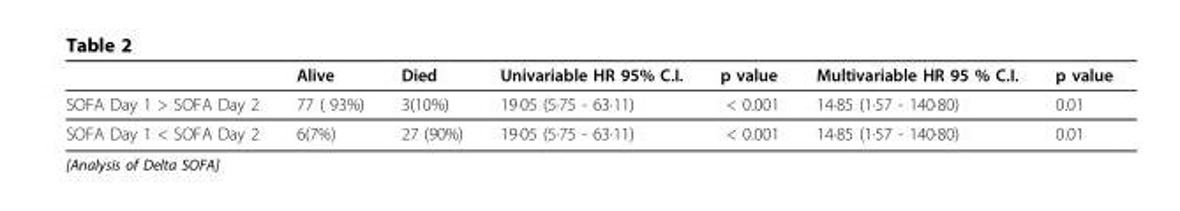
<table><thead><tr><td></td><td>Alive</td><td>Died</td><td>Univariable HR 95% C.I.</td><td>p value</td><td>Multivariable HR 95 % C.I.</td><td>p value</td></tr></thead><tbody><tr><td>SOFA Day 1 &gt; SOFA Day 2</td><td>77 ( 93%)</td><td>3(10%)</td><td>19·05 (5·75 - 63·11)</td><td>&lt; 0.001</td><td>14·85 (1·57 - 140·80)</td><td>0.01</td></tr><tr><td>SOFA Day 1 &lt; SOFA Day 2</td><td>6(7%)</td><td>27 (90%)</td><td>19·05 (5·75 - 63·11)</td><td>&lt; 0.001</td><td>14·85 (1·57 - 140·80)</td><td>0.01</td></tr></tbody></table>